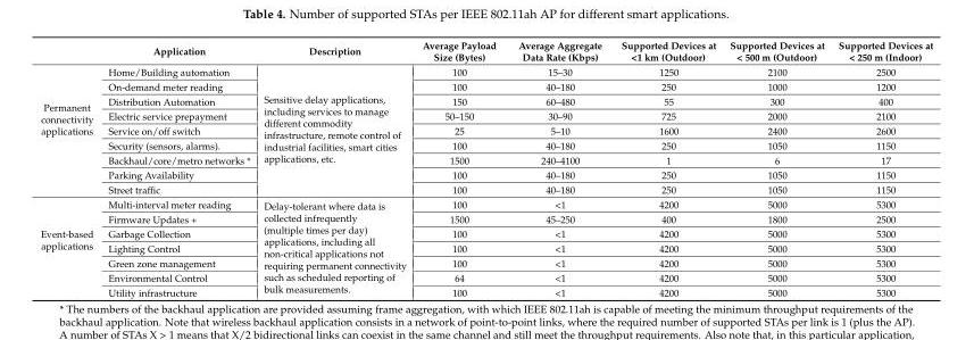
<table><thead><tr><td></td><td>Application</td><td>Description</td><td>Average Payload Size (Bytes)</td><td>Average Aggregate Data Rate (Kbps)</td><td>Supported Devices at &lt;1 km (Outdoor)</td><td>Supported Devices at &lt; 500 m (Outdoor)</td><td>Supported Devices at &lt; 250 m (Indoor)</td></tr></thead><tbody><tr><td rowspan="9">Permanent connectivity applications</td><td>Home/Building automation</td><td rowspan="9">Sensitive delay applications, including services to manage different commodity infrastructure, remote control of industrial facilities, smart cities applications, etc.</td><td>100</td><td>15–30</td><td>1250</td><td>2100</td><td>2500</td></tr><tr><td>On-demand meter reading</td><td>100</td><td>40–180</td><td>250</td><td>1000</td><td>1200</td></tr><tr><td>Distribution Automation</td><td>150</td><td>60–480</td><td>55</td><td>300</td><td>400</td></tr><tr><td>Electric service prepayment</td><td>50–150</td><td>30–90</td><td>725</td><td>2000</td><td>2100</td></tr><tr><td>Service on/off switch</td><td>25</td><td>5–10</td><td>1600</td><td>2400</td><td>2600</td></tr><tr><td>Security (sensors, alarms).</td><td>100</td><td>40–180</td><td>250</td><td>1050</td><td>1150</td></tr><tr><td>Backhaul/core/metro networks *</td><td>1500</td><td>240–4100</td><td>1</td><td>6</td><td>17</td></tr><tr><td>Parking Availability</td><td>100</td><td>40–180</td><td>250</td><td>1050</td><td>1150</td></tr><tr><td>Street traffic</td><td>100</td><td>40–180</td><td>250</td><td>1050</td><td>1150</td></tr><tr><td rowspan="7">Event-based applications</td><td>Multi-interval meter reading</td><td rowspan="7">Delay-tolerant where data is collected infrequently (multiple times per day) applications, including all non-critical applications not requiring permanent connectivity such as scheduled reporting of bulk measurements.</td><td>100</td><td>&lt;1</td><td>4200</td><td>5000</td><td>5300</td></tr><tr><td>Firmware Updates +</td><td>1500</td><td>45–250</td><td>400</td><td>1800</td><td>2500</td></tr><tr><td>Garbage Collection</td><td>100</td><td>&lt;1</td><td>4200</td><td>5000</td><td>5300</td></tr><tr><td>Lighting Control</td><td>100</td><td>&lt;1</td><td>4200</td><td>5000</td><td>5300</td></tr><tr><td>Green zone management</td><td>100</td><td>&lt;1</td><td>4200</td><td>5000</td><td>5300</td></tr><tr><td>Environmental Control</td><td>64</td><td>&lt;1</td><td>4200</td><td>5000</td><td>5300</td></tr><tr><td>Utility infrastructure</td><td>100</td><td>&lt;1</td><td>4200</td><td>5000</td><td>5300</td></tr></tbody></table>